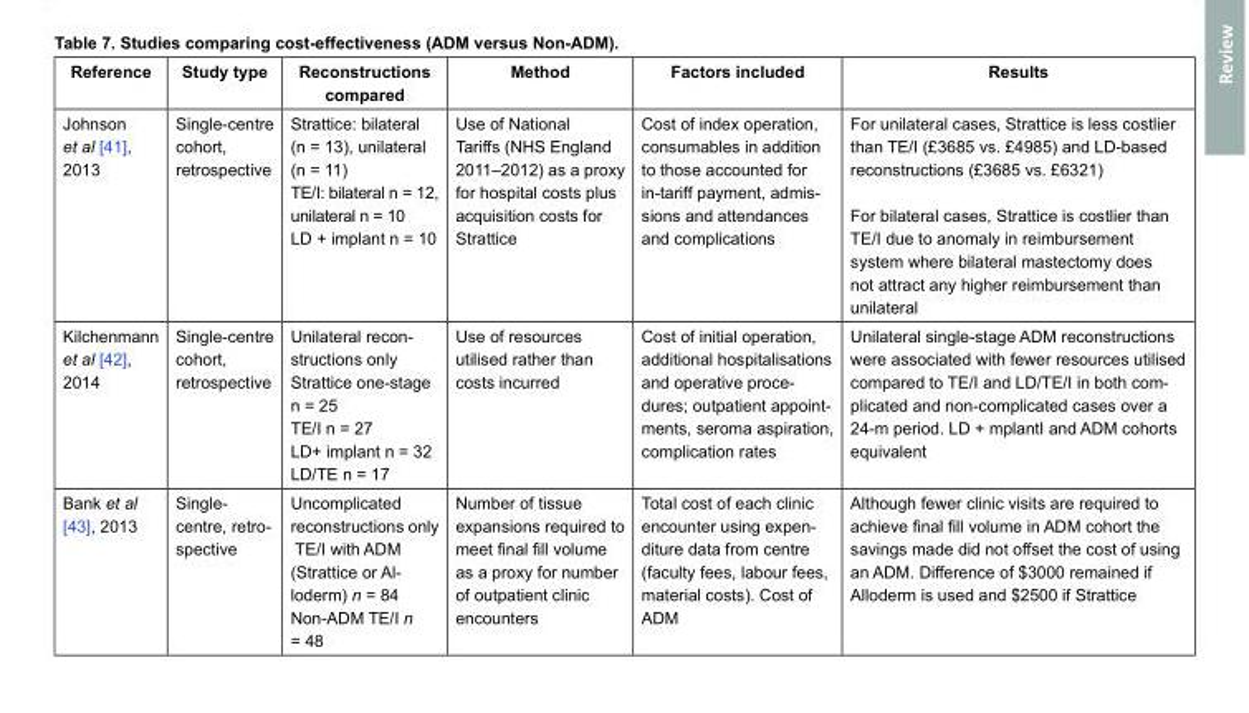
<table><thead><tr><td>Reference</td><td>Study type</td><td>Reconstructions compared</td><td>Method</td><td>Factors included</td><td>Results</td></tr></thead><tbody><tr><td>Johnson et al [41], 2013</td><td>Single-centre cohort, retrospective</td><td>Strattice: bilateral (n = 13), unilateral (n = 11) TE/I: bilateral n = 12, unilateral n = 10 LD + implant n = 10</td><td>Use of National Tariffs (NHS England 2011–2012) as a proxy for hospital costs plus acquisition costs for Strattice</td><td>Cost of index operation, consumables in addition to those accounted for in-tariff payment, admis- sions and attendances and complications</td><td>For unilateral cases, Strattice is less costlier than TE/I (£3685 vs. £4985) and LD-based reconstructions (£3685 vs. £6321) For bilateral cases, Strattice is costlier than TE/I due to anomaly in reimbursement system where bilateral mastectomy does not attract any higher reimbursement than unilateral</td></tr><tr><td>Kilchenmann et al [42], 2014</td><td>Single-centre cohort, retrospective</td><td>Unilateral recon- structions only Strattice one-stage n = 25 TE/I n = 27 LD+ implant n = 32 LD/TE n = 17</td><td>Use of resources utilised rather than costs incurred</td><td>Cost of initial operation, additional hospitalisations and operative proce- dures; outpatient appoint- ments, seroma aspiration, complication rates</td><td>Unilateral single-stage ADM reconstructions were associated with fewer resources utilised compared to TE/I and LD/TE/I in both com- plicated and non-complicated cases over a 24-m period. LD + mplantI and ADM cohorts equivalent</td></tr><tr><td>Bank et al [43], 2013</td><td>Single- centre, retro- spective</td><td>Uncomplicated reconstructions only TE/I with ADM (Strattice or Al- loderm) n = 84 Non-ADM TE/I n = 48</td><td>Number of tissue expansions required to meet final fill volume as a proxy for number of outpatient clinic encounters</td><td>Total cost of each clinic encounter using expen- diture data from centre (faculty fees, labour fees, material costs). Cost of ADM</td><td>Although fewer clinic visits are required to achieve final fill volume in ADM cohort the savings made did not offset the cost of using an ADM. Difference of $3000 remained if Alloderm is used and $2500 if Strattice</td></tr></tbody></table>